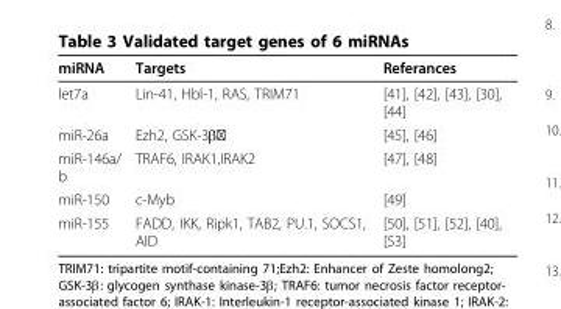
<table><thead><tr><td>miRNA</td><td>Targets</td><td>Referances</td></tr></thead><tbody><tr><td>let7a</td><td>Lin-41, Hbl-1, RAS, TRIM71</td><td>[41], [42], [43], [30], [44]</td></tr><tr><td>miR-26a</td><td>Ezh2, GSK-3β、</td><td>[45], [46]</td></tr><tr><td>miR-146a/ b</td><td>TRAF6, IRAK1,IRAK2</td><td>[47], [48]</td></tr><tr><td>miR-150</td><td>c-Myb</td><td>[49]</td></tr><tr><td>miR-155</td><td>FADD, IKK, Ripk1, TAB2, PU.1, SOCS1, AID</td><td>[50], [51], [52], [40], [53]</td></tr></tbody></table>